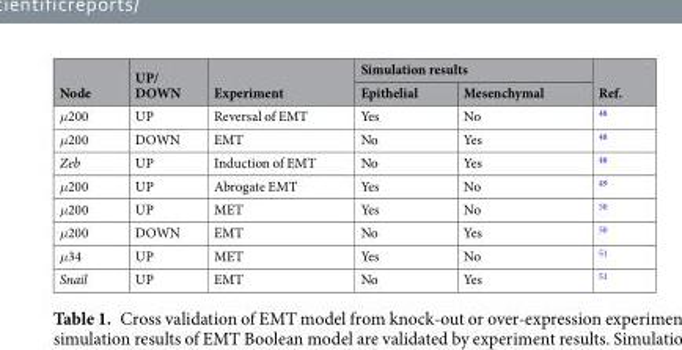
<table><thead><tr><td rowspan="2">Node</td><td rowspan="2">UP/ DOWN</td><td rowspan="2">Experiment</td><td colspan="2">Simulation results</td><td rowspan="2">Ref.</td></tr><tr><td>Epithelial</td><td>Mesenchymal</td></tr></thead><tbody><tr><td>μ200</td><td>UP</td><td>Reversal of EMT</td><td>Yes</td><td>No</td><td><sup>48</sup></td></tr><tr><td>μ200</td><td>DOWN</td><td>EMT</td><td>No</td><td>Yes</td><td><sup>48</sup></td></tr><tr><td>Zeb</td><td>UP</td><td>Induction of EMT</td><td>No</td><td>Yes</td><td><sup>48</sup></td></tr><tr><td>μ200</td><td>UP</td><td>Abrogate EMT</td><td>Yes</td><td>No</td><td><sup>49</sup></td></tr><tr><td>μ200</td><td>UP</td><td>MET</td><td>Yes</td><td>No</td><td><sup>50</sup></td></tr><tr><td>μ200</td><td>DOWN</td><td>EMT</td><td>No</td><td>Yes</td><td><sup>50</sup></td></tr><tr><td>μ34</td><td>UP</td><td>MET</td><td>Yes</td><td>No</td><td><sup>51</sup></td></tr><tr><td>Snail</td><td>UP</td><td>EMT</td><td>No</td><td>Yes</td><td><sup>51</sup></td></tr></tbody></table>